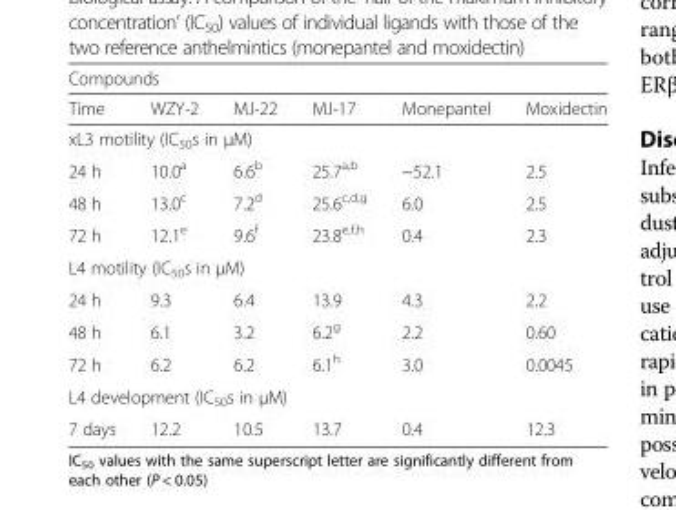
<table><thead><tr><td colspan="6">Compounds</td></tr><tr><td>Time</td><td>WZY-2</td><td>MJ-22</td><td>MJ-17</td><td>Monepantel</td><td>Moxidectin</td></tr></thead><tbody><tr><td colspan="6">xL3 motility (IC<sub>50</sub>s in μM)</td></tr><tr><td>24 h</td><td>10.0<sup>a</sup></td><td>6.6<sup>b</sup></td><td>25.7<sup>a,b</sup></td><td>~52.1</td><td>2.5</td></tr><tr><td>48 h</td><td>13.0<sup>c</sup></td><td>7.2<sup>d</sup></td><td>25.6<sup>c,d,g</sup></td><td>6.0</td><td>2.5</td></tr><tr><td>72 h</td><td>12.1<sup>e</sup></td><td>9.6<sup>f</sup></td><td>23.8<sup>e,f,h</sup></td><td>0.4</td><td>2.3</td></tr><tr><td colspan="6">L4 motility (IC<sub>50</sub>s in μM)</td></tr><tr><td>24 h</td><td>9.3</td><td>6.4</td><td>13.9</td><td>4.3</td><td>2.2</td></tr><tr><td>48 h</td><td>6.1</td><td>3.2</td><td>6.2<sup>g</sup></td><td>2.2</td><td>0.60</td></tr><tr><td>72 h</td><td>6.2</td><td>6.2</td><td>6.1<sup>h</sup></td><td>3.0</td><td>0.0045</td></tr><tr><td colspan="6">L4 development (IC<sub>50</sub>s in μM)</td></tr><tr><td>7 days</td><td>12.2</td><td>10.5</td><td>13.7</td><td>0.4</td><td>12.3</td></tr></tbody></table>